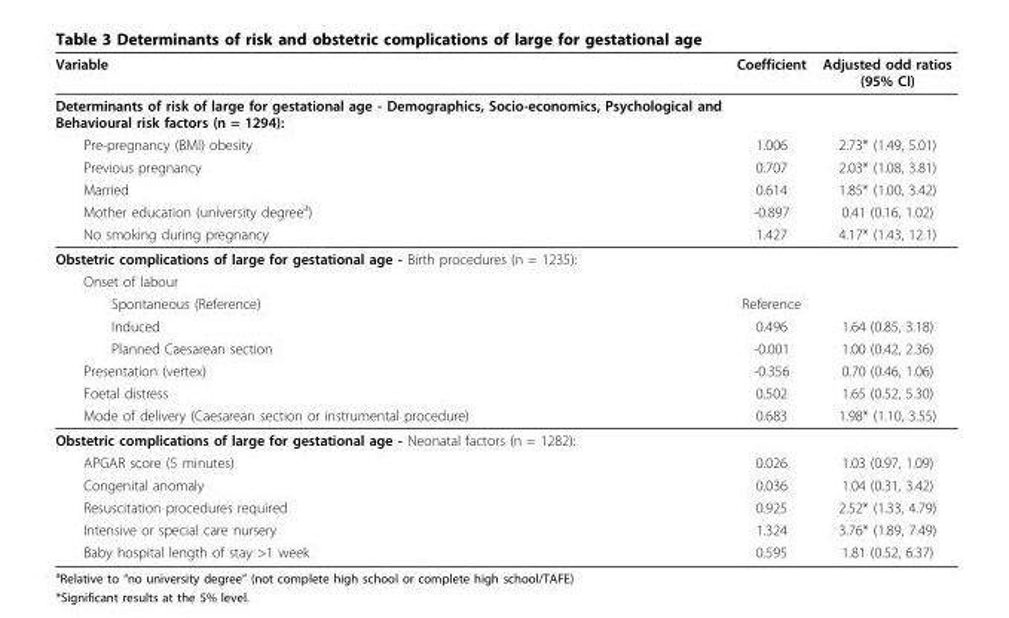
<table><thead><tr><td>Variable</td><td>Coefficient</td><td>Adjusted odd ratios (95% CI)</td></tr></thead><tbody><tr><td colspan="3">Determinants of risk of large for gestational age - Demographics, Socio-economics, Psychological and Behavioural risk factors (n = 1294):</td></tr><tr><td>Pre-pregnancy (BMI) obesity</td><td>1.006</td><td>2.73* (1.49, 5.01)</td></tr><tr><td>Previous pregnancy</td><td>0.707</td><td>2.03* (1.08, 3.81)</td></tr><tr><td>Married</td><td>0.614</td><td>1.85* (1.00, 3.42)</td></tr><tr><td>Mother education (university degree<sup>a</sup>)</td><td>-0.897</td><td>0.41 (0.16, 1.02)</td></tr><tr><td>No smoking during pregnancy</td><td>1.427</td><td>4.17* (1.43, 12.1)</td></tr><tr><td colspan="3">Obstetric complications of large for gestational age - Birth procedures (n = 1235):</td></tr><tr><td colspan="3">Onset of labour</td></tr><tr><td>Spontaneous (Reference)</td><td>Reference</td><td></td></tr><tr><td>Induced</td><td>0.496</td><td>1.64 (0.85, 3.18)</td></tr><tr><td>Planned Caesarean section</td><td>-0.001</td><td>1.00 (0.42, 2.36)</td></tr><tr><td>Presentation (vertex)</td><td>-0.356</td><td>0.70 (0.46, 1.06)</td></tr><tr><td>Foetal distress</td><td>0.502</td><td>1.65 (0.52, 5.30)</td></tr><tr><td>Mode of delivery (Caesarean section or instrumental procedure)</td><td>0.683</td><td>1.98* (1.10, 3.55)</td></tr><tr><td colspan="3">Obstetric complications of large for gestational age - Neonatal factors (n = 1282):</td></tr><tr><td>APGAR score (5 minutes)</td><td>0.026</td><td>1.03 (0.97, 1.09)</td></tr><tr><td>Congenital anomaly</td><td>0.036</td><td>1.04 (0.31, 3.42)</td></tr><tr><td>Resuscitation procedures required</td><td>0.925</td><td>2.52* (1.33, 4.79)</td></tr><tr><td>Intensive or special care nursery</td><td>1.324</td><td>3.76* (1.89, 7.49)</td></tr><tr><td>Baby hospital length of stay &gt;1 week</td><td>0.595</td><td>1.81 (0.52, 6.37)</td></tr></tbody></table>